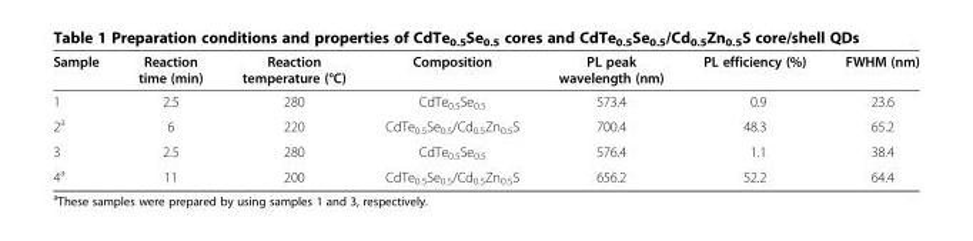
<table><thead><tr><td>Sample</td><td>Reaction time (min)</td><td>Reaction temperature (°C)</td><td>Composition</td><td>PL peak wavelength (nm)</td><td>PL efficiency (%)</td><td>FWHM (nm)</td></tr></thead><tbody><tr><td>1</td><td>2.5</td><td>280</td><td>CdTe<sub>0.5</sub>Se<sub>0.5</sub></td><td>573.4</td><td>0.9</td><td>23.6</td></tr><tr><td>2<sup>a</sup></td><td>6</td><td>220</td><td>CdTe<sub>0.5</sub>Se<sub>0.5</sub>/Cd<sub>0.5</sub>Zn<sub>0.5</sub>S</td><td>700.4</td><td>48.3</td><td>65.2</td></tr><tr><td>3</td><td>2.5</td><td>280</td><td>CdTe<sub>0.5</sub>Se<sub>0.5</sub></td><td>576.4</td><td>1.1</td><td>38.4</td></tr><tr><td>4<sup>a</sup></td><td>11</td><td>200</td><td>CdTe<sub>0.5</sub>Se<sub>0.5</sub>/Cd<sub>0.5</sub>Zn<sub>0.5</sub>S</td><td>656.2</td><td>52.2</td><td>64.4</td></tr></tbody></table>